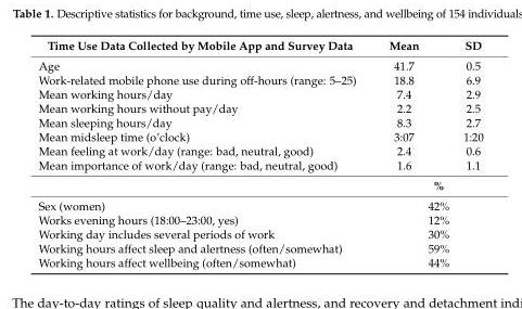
<table><thead><tr><td>Time Use Data Collected by Mobile App and Survey Data</td><td>Mean</td><td>SD</td></tr></thead><tbody><tr><td>Age</td><td>41.7</td><td>0.5</td></tr><tr><td>Work-related mobile phone use during off-hours (range: 5–25)</td><td>18.8</td><td>6.9</td></tr><tr><td>Mean working hours/day</td><td>7.4</td><td>2.9</td></tr><tr><td>Mean working hours without pay/day</td><td>2.2</td><td>2.5</td></tr><tr><td>Mean sleeping hours/day</td><td>8.3</td><td>2.7</td></tr><tr><td>Mean midsleep time (o’clock)</td><td>3:07</td><td>1:20</td></tr><tr><td>Mean feeling at work/day (range: bad, neutral, good)</td><td>2.4</td><td>0.6</td></tr><tr><td rowspan="2">Mean importance of work/day (range: bad, neutral, good)</td><td>1.6</td><td>1.1</td></tr><tr><td colspan="2">%</td></tr><tr><td>Sex (women)</td><td colspan="2">42%</td></tr><tr><td>Works evening hours (18:00–23:00, yes)</td><td colspan="2">12%</td></tr><tr><td>Working day includes several periods of work</td><td colspan="2">30%</td></tr><tr><td>Working hours affect sleep and alertness (often/somewhat)</td><td colspan="2">59%</td></tr><tr><td>Working hours affect wellbeing (often/somewhat)</td><td colspan="2">44%</td></tr></tbody></table>